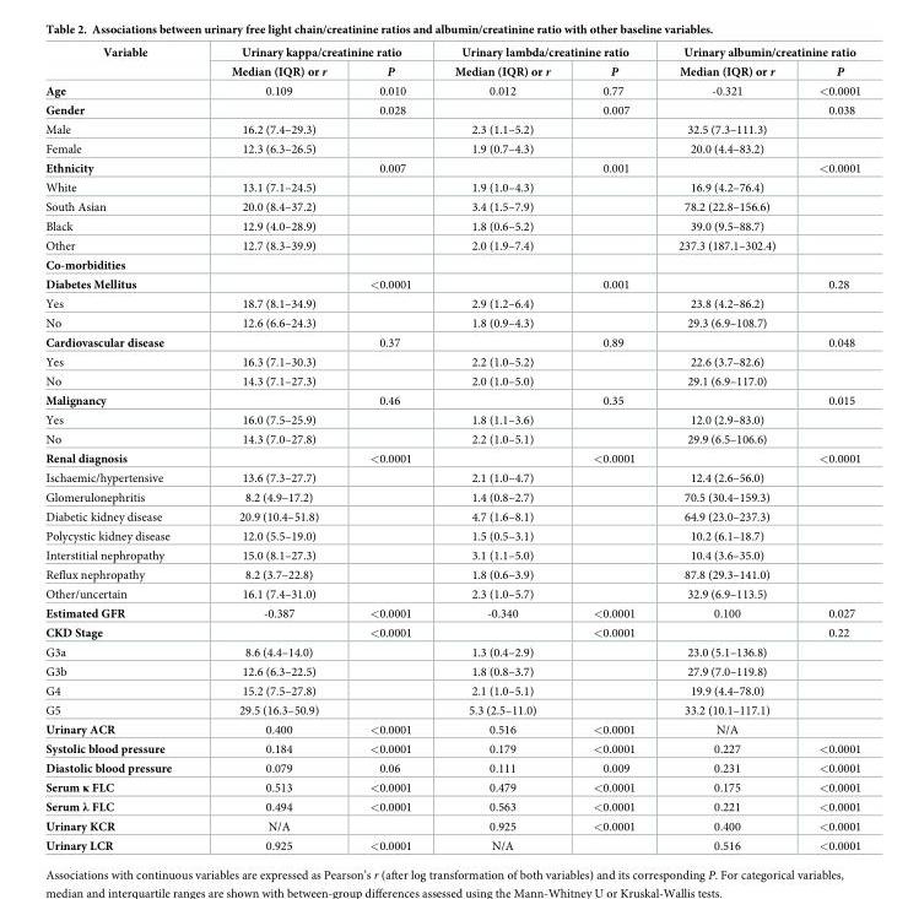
<table><thead><tr><td rowspan="2">Variable</td><td colspan="2">Urinary kappa/creatinine ratio</td><td colspan="2">Urinary lambda/creatinine ratio</td><td colspan="2">Urinary albumin/creatinine ratio</td></tr><tr><td>Median (IQR) or r</td><td>P</td><td>Median (IQR) or r</td><td>P</td><td>Median (IQR) or r</td><td>P</td></tr></thead><tbody><tr><td>Age</td><td>0.109</td><td>0.010</td><td>0.012</td><td>0.77</td><td>-0.321</td><td>&lt;0.0001</td></tr><tr><td>Gender</td><td></td><td>0.028</td><td></td><td>0.007</td><td></td><td>0.038</td></tr><tr><td>Male</td><td>16.2 (7.4–29.3)</td><td></td><td>2.3 (1.1–5.2)</td><td></td><td>32.5 (7.3–111.3)</td><td></td></tr><tr><td>Female</td><td>12.3 (6.3–26.5)</td><td></td><td>1.9 (0.7–4.3)</td><td></td><td>20.0 (4.4–83.2)</td><td></td></tr><tr><td>Ethnicity</td><td></td><td>0.007</td><td></td><td>0.001</td><td></td><td>&lt;0.0001</td></tr><tr><td>White</td><td>13.1 (7.1–24.5)</td><td></td><td>1.9 (1.0–4.3)</td><td></td><td>16.9 (4.2–76.4)</td><td></td></tr><tr><td>South Asian</td><td>20.0 (8.4–37.2)</td><td></td><td>3.4 (1.5–7.9)</td><td></td><td>78.2 (22.8–156.6)</td><td></td></tr><tr><td>Black</td><td>12.9 (4.0–28.9)</td><td></td><td>1.8 (0.6–5.2)</td><td></td><td>39.0 (9.5–88.7)</td><td></td></tr><tr><td>Other</td><td>12.7 (8.3–39.9)</td><td></td><td>2.0 (1.9–7.4)</td><td></td><td>237.3 (187.1–302.4)</td><td></td></tr><tr><td colspan="7">Co-morbidities</td></tr><tr><td>Diabetes Mellitus</td><td></td><td>&lt;0.0001</td><td></td><td>0.001</td><td></td><td>0.28</td></tr><tr><td>Yes</td><td>18.7 (8.1–34.9)</td><td></td><td>2.9 (1.2–6.4)</td><td></td><td>23.8 (4.2–86.2)</td><td></td></tr><tr><td>No</td><td>12.6 (6.6–24.3)</td><td></td><td>1.8 (0.9–4.3)</td><td></td><td>29.3 (6.9–108.7)</td><td></td></tr><tr><td>Cardiovascular disease</td><td></td><td>0.37</td><td></td><td>0.89</td><td></td><td>0.048</td></tr><tr><td>Yes</td><td>16.3 (7.1–30.3)</td><td></td><td>2.2 (1.0–5.2)</td><td></td><td>22.6 (3.7–82.6)</td><td></td></tr><tr><td>No</td><td>14.3 (7.1–27.3)</td><td></td><td>2.0 (1.0–5.0)</td><td></td><td>29.1 (6.9–117.0)</td><td></td></tr><tr><td>Malignancy</td><td></td><td>0.46</td><td></td><td>0.35</td><td></td><td>0.015</td></tr><tr><td>Yes</td><td>16.0 (7.5–25.9)</td><td></td><td>1.8 (1.1–3.6)</td><td></td><td>12.0 (2.9–83.0)</td><td></td></tr><tr><td>No</td><td>14.3 (7.0–27.8)</td><td></td><td>2.2 (1.0–5.1)</td><td></td><td>29.9 (6.5–106.6)</td><td></td></tr><tr><td>Renal diagnosis</td><td></td><td>&lt;0.0001</td><td></td><td>&lt;0.0001</td><td></td><td>&lt;0.0001</td></tr><tr><td>Ischaemic/hypertensive</td><td>13.6 (7.3–27.7)</td><td></td><td>2.1 (1.0–4.7)</td><td></td><td>12.4 (2.6–56.0)</td><td></td></tr><tr><td>Glomerulonephritis</td><td>8.2 (4.9–17.2)</td><td></td><td>1.4 (0.8–2.7)</td><td></td><td>70.5 (30.4–159.3)</td><td></td></tr><tr><td>Diabetic kidney disease</td><td>20.9 (10.4–51.8)</td><td></td><td>4.7 (1.6–8.1)</td><td></td><td>64.9 (23.0–237.3)</td><td></td></tr><tr><td>Polycystic kidney disease</td><td>12.0 (5.5–19.0)</td><td></td><td>1.5 (0.5–3.1)</td><td></td><td>10.2 (6.1–18.7)</td><td></td></tr><tr><td>Interstitial nephropathy</td><td>15.0 (8.1–27.3)</td><td></td><td>3.1 (1.1–5.0)</td><td></td><td>10.4 (3.6–35.0)</td><td></td></tr><tr><td>Reflux nephropathy</td><td>8.2 (3.7–22.8)</td><td></td><td>1.8 (0.6–3.9)</td><td></td><td>87.8 (29.3–141.0)</td><td></td></tr><tr><td>Other/uncertain</td><td>16.1 (7.4–31.0)</td><td></td><td>2.3 (1.0–5.7)</td><td></td><td>32.9 (6.9–113.5)</td><td></td></tr><tr><td>Estimated GFR</td><td>-0.387</td><td>&lt;0.0001</td><td>-0.340</td><td>&lt;0.0001</td><td>0.100</td><td>0.027</td></tr><tr><td>CKD Stage</td><td></td><td>&lt;0.0001</td><td></td><td>&lt;0.0001</td><td></td><td>0.22</td></tr><tr><td>G3a</td><td>8.6 (4.4–14.0)</td><td></td><td>1.3 (0.4–2.9)</td><td></td><td>23.0 (5.1–136.8)</td><td></td></tr><tr><td>G3b</td><td>12.6 (6.3–22.5)</td><td></td><td>1.8 (0.8–3.7)</td><td></td><td>27.9 (7.0–119.8)</td><td></td></tr><tr><td>G4</td><td>15.2 (7.5–27.8)</td><td></td><td>2.1 (1.0–5.1)</td><td></td><td>19.9 (4.4–78.0)</td><td></td></tr><tr><td>G5</td><td>29.5 (16.3–50.9)</td><td></td><td>5.3 (2.5–11.0)</td><td></td><td>33.2 (10.1–117.1)</td><td></td></tr><tr><td>Urinary ACR</td><td>0.400</td><td>&lt;0.0001</td><td>0.516</td><td>&lt;0.0001</td><td>N/A</td><td></td></tr><tr><td>Systolic blood pressure</td><td>0.184</td><td>&lt;0.0001</td><td>0.179</td><td>&lt;0.0001</td><td>0.227</td><td>&lt;0.0001</td></tr><tr><td>Diastolic blood pressure</td><td>0.079</td><td>0.06</td><td>0.111</td><td>0.009</td><td>0.231</td><td>&lt;0.0001</td></tr><tr><td>Serum κ FLC</td><td>0.513</td><td>&lt;0.0001</td><td>0.479</td><td>&lt;0.0001</td><td>0.175</td><td>&lt;0.0001</td></tr><tr><td>Serum λ FLC</td><td>0.494</td><td>&lt;0.0001</td><td>0.563</td><td>&lt;0.0001</td><td>0.221</td><td>&lt;0.0001</td></tr><tr><td>Urinary KCR</td><td>N/A</td><td></td><td>0.925</td><td>&lt;0.0001</td><td>0.400</td><td>&lt;0.0001</td></tr><tr><td>Urinary LCR</td><td>0.925</td><td>&lt;0.0001</td><td>N/A</td><td></td><td>0.516</td><td>&lt;0.0001</td></tr></tbody></table>